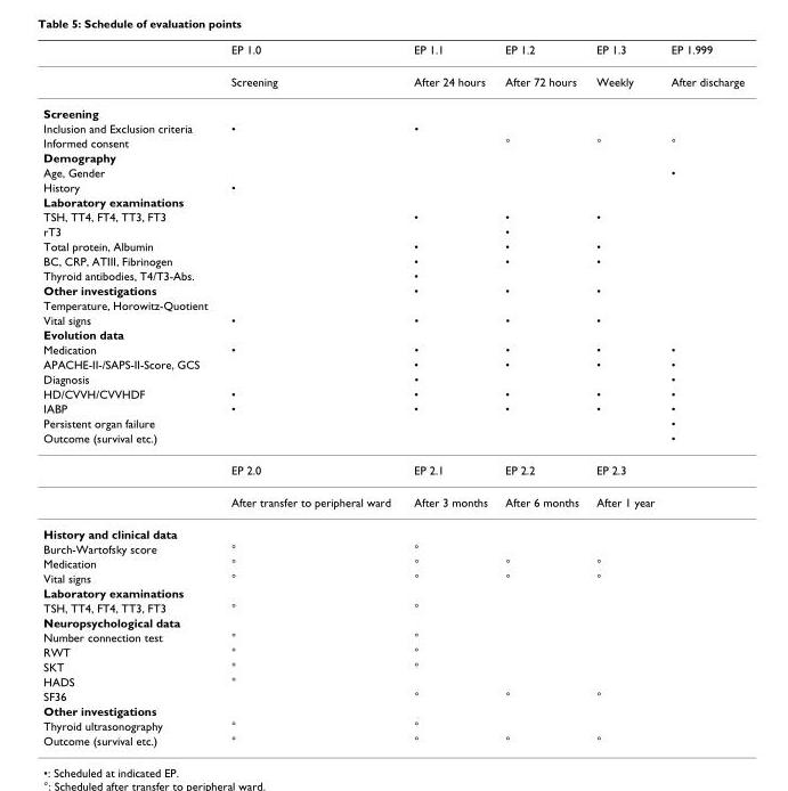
<table><thead><tr><td></td><td>EP 1.0</td><td>EP 1.1</td><td>EP 1.2</td><td>EP 1.3</td><td>EP 1.999</td></tr></thead><tbody><tr><td></td><td>Screening</td><td>After 24 hours</td><td>After 72 hours</td><td>Weekly</td><td>After discharge</td></tr><tr><td colspan="6">Screening</td></tr><tr><td>Inclusion and Exclusion criteria</td><td>•</td><td>•</td><td></td><td></td><td></td></tr><tr><td>Informed consent</td><td></td><td></td><td>°</td><td>°</td><td>°</td></tr><tr><td colspan="6">Demography</td></tr><tr><td>Age, Gender</td><td></td><td></td><td></td><td></td><td>•</td></tr><tr><td>History</td><td>•</td><td></td><td></td><td></td><td></td></tr><tr><td colspan="6">Laboratory examinations</td></tr><tr><td>TSH, TT4, FT4, TT3, FT3</td><td></td><td>•</td><td>•</td><td>•</td><td></td></tr><tr><td>rT3</td><td></td><td></td><td>•</td><td></td><td></td></tr><tr><td>Total protein, Albumin</td><td></td><td>•</td><td>•</td><td>•</td><td></td></tr><tr><td>BC, CRP, ATIII, Fibrinogen</td><td></td><td>•</td><td>•</td><td>•</td><td></td></tr><tr><td>Thyroid antibodies, T4/T3-Abs.</td><td></td><td>•</td><td></td><td></td><td></td></tr><tr><td>Other investigations</td><td></td><td>•</td><td>•</td><td>•</td><td></td></tr><tr><td colspan="6">Temperature, Horowitz-Quotient</td></tr><tr><td>Vital signs</td><td>•</td><td>•</td><td>•</td><td>•</td><td></td></tr><tr><td colspan="6">Evolution data</td></tr><tr><td>Medication</td><td>•</td><td>•</td><td>•</td><td>•</td><td>•</td></tr><tr><td>APACHE-II-/SAPS-II-Score, GCS</td><td></td><td>•</td><td>•</td><td>•</td><td>•</td></tr><tr><td>Diagnosis</td><td></td><td>•</td><td></td><td></td><td>•</td></tr><tr><td>HD/CVVH/CVVHDF</td><td>•</td><td>•</td><td>•</td><td>•</td><td>•</td></tr><tr><td>IABP</td><td>•</td><td>•</td><td>•</td><td>•</td><td>•</td></tr><tr><td>Persistent organ failure</td><td></td><td></td><td></td><td></td><td>•</td></tr><tr><td rowspan="3">Outcome (survival etc.)</td><td></td><td></td><td></td><td></td><td>•</td></tr><tr><td>EP 2.0</td><td>EP 2.1</td><td>EP 2.2</td><td>EP 2.3</td><td></td></tr><tr><td>After transfer to peripheral ward</td><td>After 3 months</td><td>After 6 months</td><td>After 1 year</td><td></td></tr><tr><td colspan="6">History and clinical data</td></tr><tr><td>Burch-Wartofsky score</td><td>°</td><td>°</td><td></td><td></td><td></td></tr><tr><td>Medication</td><td>°</td><td>°</td><td>°</td><td>°</td><td></td></tr><tr><td>Vital signs</td><td>°</td><td>°</td><td>°</td><td>°</td><td></td></tr><tr><td colspan="6">Laboratory examinations</td></tr><tr><td>TSH, TT4, FT4, TT3, FT3</td><td>°</td><td>°</td><td></td><td></td><td></td></tr><tr><td colspan="6">Neuropsychological data</td></tr><tr><td>Number connection test</td><td>°</td><td>°</td><td></td><td></td><td></td></tr><tr><td>RWT</td><td>°</td><td>°</td><td></td><td></td><td></td></tr><tr><td>SKT</td><td>°</td><td>°</td><td></td><td></td><td></td></tr><tr><td>HADS</td><td>°</td><td></td><td></td><td></td><td></td></tr><tr><td>SF36</td><td></td><td>°</td><td>°</td><td>°</td><td></td></tr><tr><td colspan="6">Other investigations</td></tr><tr><td>Thyroid ultrasonography</td><td>°</td><td>°</td><td></td><td></td><td></td></tr><tr><td>Outcome (survival etc.)</td><td>°</td><td>°</td><td>°</td><td>°</td><td></td></tr></tbody></table>